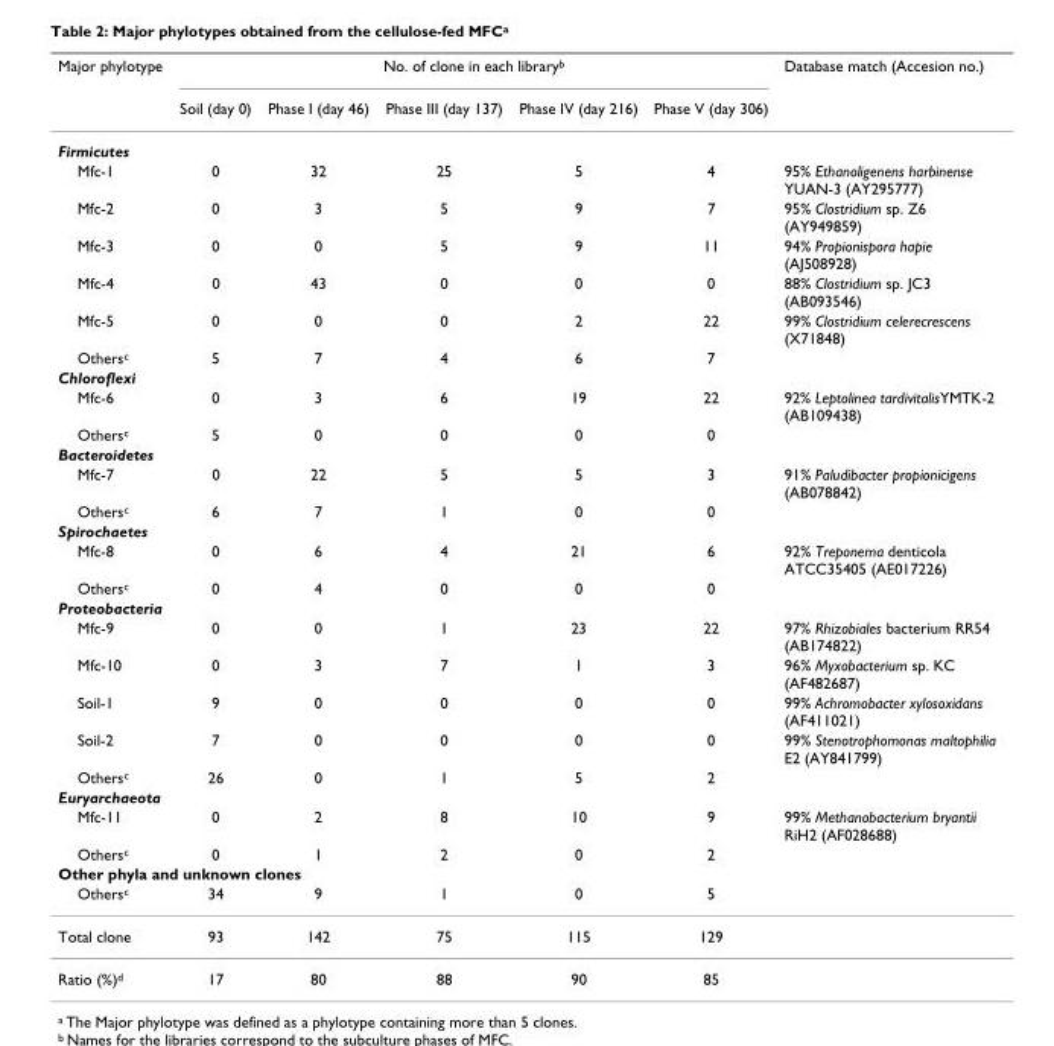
<table><thead><tr><td rowspan="2">Major phylotype</td><td colspan="5">No. of clone in each library<sup>b</sup></td><td rowspan="2">Database match (Accesion no.)</td></tr><tr><td>Soil (day 0)</td><td>Phase I (day 46)</td><td>Phase III (day 137)</td><td>Phase IV (day 216)</td><td>Phase V (day 306)</td></tr></thead><tbody><tr><td colspan="7">Firmicutes</td></tr><tr><td>Mfc-1</td><td>0</td><td>32</td><td>25</td><td>5</td><td>4</td><td>95% Ethanoligenens harbinense YUAN-3 (AY295777)</td></tr><tr><td>Mfc-2</td><td>0</td><td>3</td><td>5</td><td>9</td><td>7</td><td>95% Clostridium sp. Z6 (AY949859)</td></tr><tr><td>Mfc-3</td><td>0</td><td>0</td><td>5</td><td>9</td><td>11</td><td>94% Propionispora hapie (AJ508928)</td></tr><tr><td>Mfc-4</td><td>0</td><td>43</td><td>0</td><td>0</td><td>0</td><td>88% Clostridium sp. JC3 (AB093546)</td></tr><tr><td>Mfc-5</td><td>0</td><td>0</td><td>0</td><td>2</td><td>22</td><td>99% Clostridium celerecrescens (X71848)</td></tr><tr><td>Others<sup>c</sup></td><td>5</td><td>7</td><td>4</td><td>6</td><td>7</td><td></td></tr><tr><td colspan="7">Chloroflexi</td></tr><tr><td>Mfc-6</td><td>0</td><td>3</td><td>6</td><td>19</td><td>22</td><td>92% Leptolinea tardivitalisYMTK-2 (AB109438)</td></tr><tr><td>Others<sup>c</sup></td><td>5</td><td>0</td><td>0</td><td>0</td><td>0</td><td></td></tr><tr><td colspan="7">Bacteroidetes</td></tr><tr><td>Mfc-7</td><td>0</td><td>22</td><td>5</td><td>5</td><td>3</td><td>91% Paludibacter propionicigens (AB078842)</td></tr><tr><td>Others<sup>c</sup></td><td>6</td><td>7</td><td>1</td><td>0</td><td>0</td><td></td></tr><tr><td colspan="7">Spirochaetes</td></tr><tr><td>Mfc-8</td><td>0</td><td>6</td><td>4</td><td>21</td><td>6</td><td>92% Treponema denticola ATCC35405 (AE017226)</td></tr><tr><td>Others<sup>c</sup></td><td>0</td><td>4</td><td>0</td><td>0</td><td>0</td><td></td></tr><tr><td colspan="7">Proteobacteria</td></tr><tr><td>Mfc-9</td><td>0</td><td>0</td><td>1</td><td>23</td><td>22</td><td>97% Rhizobiales bacterium RR54 (AB174822)</td></tr><tr><td>Mfc-10</td><td>0</td><td>3</td><td>7</td><td>1</td><td>3</td><td>96% Myxobacterium sp. KC (AF482687)</td></tr><tr><td>Soil-1</td><td>9</td><td>0</td><td>0</td><td>0</td><td>0</td><td>99% Achromobacter xylosoxidans (AF411021)</td></tr><tr><td>Soil-2</td><td>7</td><td>0</td><td>0</td><td>0</td><td>0</td><td>99% Stenotrophomonas maltophilia E2 (AY841799)</td></tr><tr><td>Others<sup>c</sup></td><td>26</td><td>0</td><td>1</td><td>5</td><td>2</td><td></td></tr><tr><td colspan="7">Euryarchaeota</td></tr><tr><td>Mfc-11</td><td>0</td><td>2</td><td>8</td><td>10</td><td>9</td><td>99% Methanobacterium bryantii RiH2 (AF028688)</td></tr><tr><td>Others<sup>c</sup></td><td>0</td><td>1</td><td>2</td><td>0</td><td>2</td><td></td></tr><tr><td colspan="7">Other phyla and unknown clones</td></tr><tr><td>Others<sup>c</sup></td><td>34</td><td>9</td><td>1</td><td>0</td><td>5</td><td></td></tr><tr><td>Total clone</td><td>93</td><td>142</td><td>75</td><td>115</td><td>129</td><td></td></tr><tr><td>Ratio (%)<sup>d</sup></td><td>17</td><td>80</td><td>88</td><td>90</td><td>85</td><td></td></tr></tbody></table>